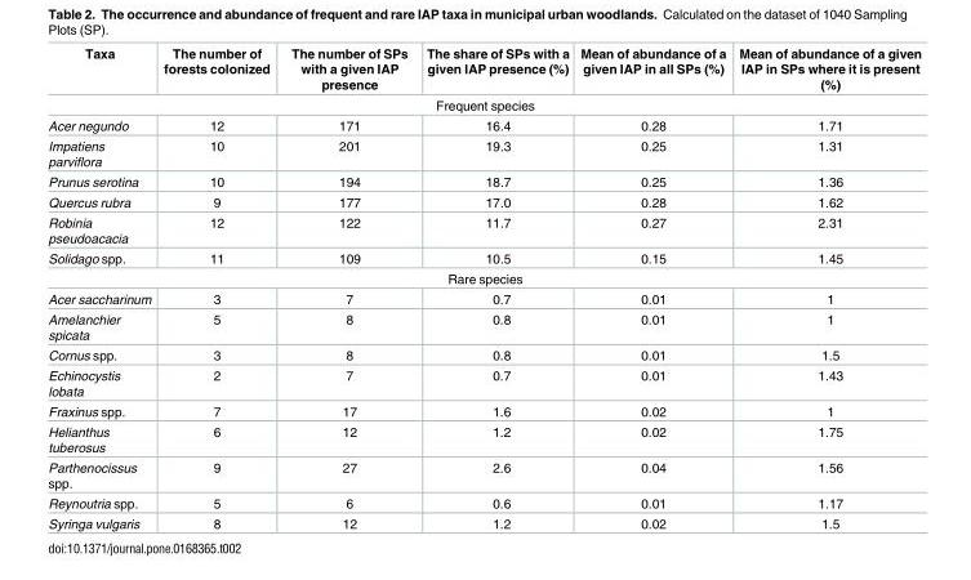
<table><thead><tr><td>Taxa</td><td>The number of forests colonized</td><td>The number of SPs with a given IAP presence</td><td>The share of SPs with a given IAP presence (%)</td><td>Mean of abundance of a given IAP in all SPs (%)</td><td>Mean of abundance of a given IAP in SPs where it is present (%)</td></tr></thead><tbody><tr><td colspan="6">Frequent species</td></tr><tr><td>Acer negundo</td><td>12</td><td>171</td><td>16.4</td><td>0.28</td><td>1.71</td></tr><tr><td>Impatiens parviflora</td><td>10</td><td>201</td><td>19.3</td><td>0.25</td><td>1.31</td></tr><tr><td>Prunus serotina</td><td>10</td><td>194</td><td>18.7</td><td>0.25</td><td>1.36</td></tr><tr><td>Quercus rubra</td><td>9</td><td>177</td><td>17.0</td><td>0.28</td><td>1.62</td></tr><tr><td>Robinia pseudoacacia</td><td>12</td><td>122</td><td>11.7</td><td>0.27</td><td>2.31</td></tr><tr><td>Solidago spp.</td><td>11</td><td>109</td><td>10.5</td><td>0.15</td><td>1.45</td></tr><tr><td colspan="6">Rare species</td></tr><tr><td>Acer saccharinum</td><td>3</td><td>7</td><td>0.7</td><td>0.01</td><td>1</td></tr><tr><td>Amelanchier spicata</td><td>5</td><td>8</td><td>0.8</td><td>0.01</td><td>1</td></tr><tr><td>Cornus spp.</td><td>3</td><td>8</td><td>0.8</td><td>0.01</td><td>1.5</td></tr><tr><td>Echinocystis lobata</td><td>2</td><td>7</td><td>0.7</td><td>0.01</td><td>1.43</td></tr><tr><td>Fraxinus spp.</td><td>7</td><td>17</td><td>1.6</td><td>0.02</td><td>1</td></tr><tr><td>Helianthus tuberosus</td><td>6</td><td>12</td><td>1.2</td><td>0.02</td><td>1.75</td></tr><tr><td>Parthenocissus spp.</td><td>9</td><td>27</td><td>2.6</td><td>0.04</td><td>1.56</td></tr><tr><td>Reynoutria spp.</td><td>5</td><td>6</td><td>0.6</td><td>0.01</td><td>1.17</td></tr><tr><td>Syringa vulgaris</td><td>8</td><td>12</td><td>1.2</td><td>0.02</td><td>1.5</td></tr></tbody></table>